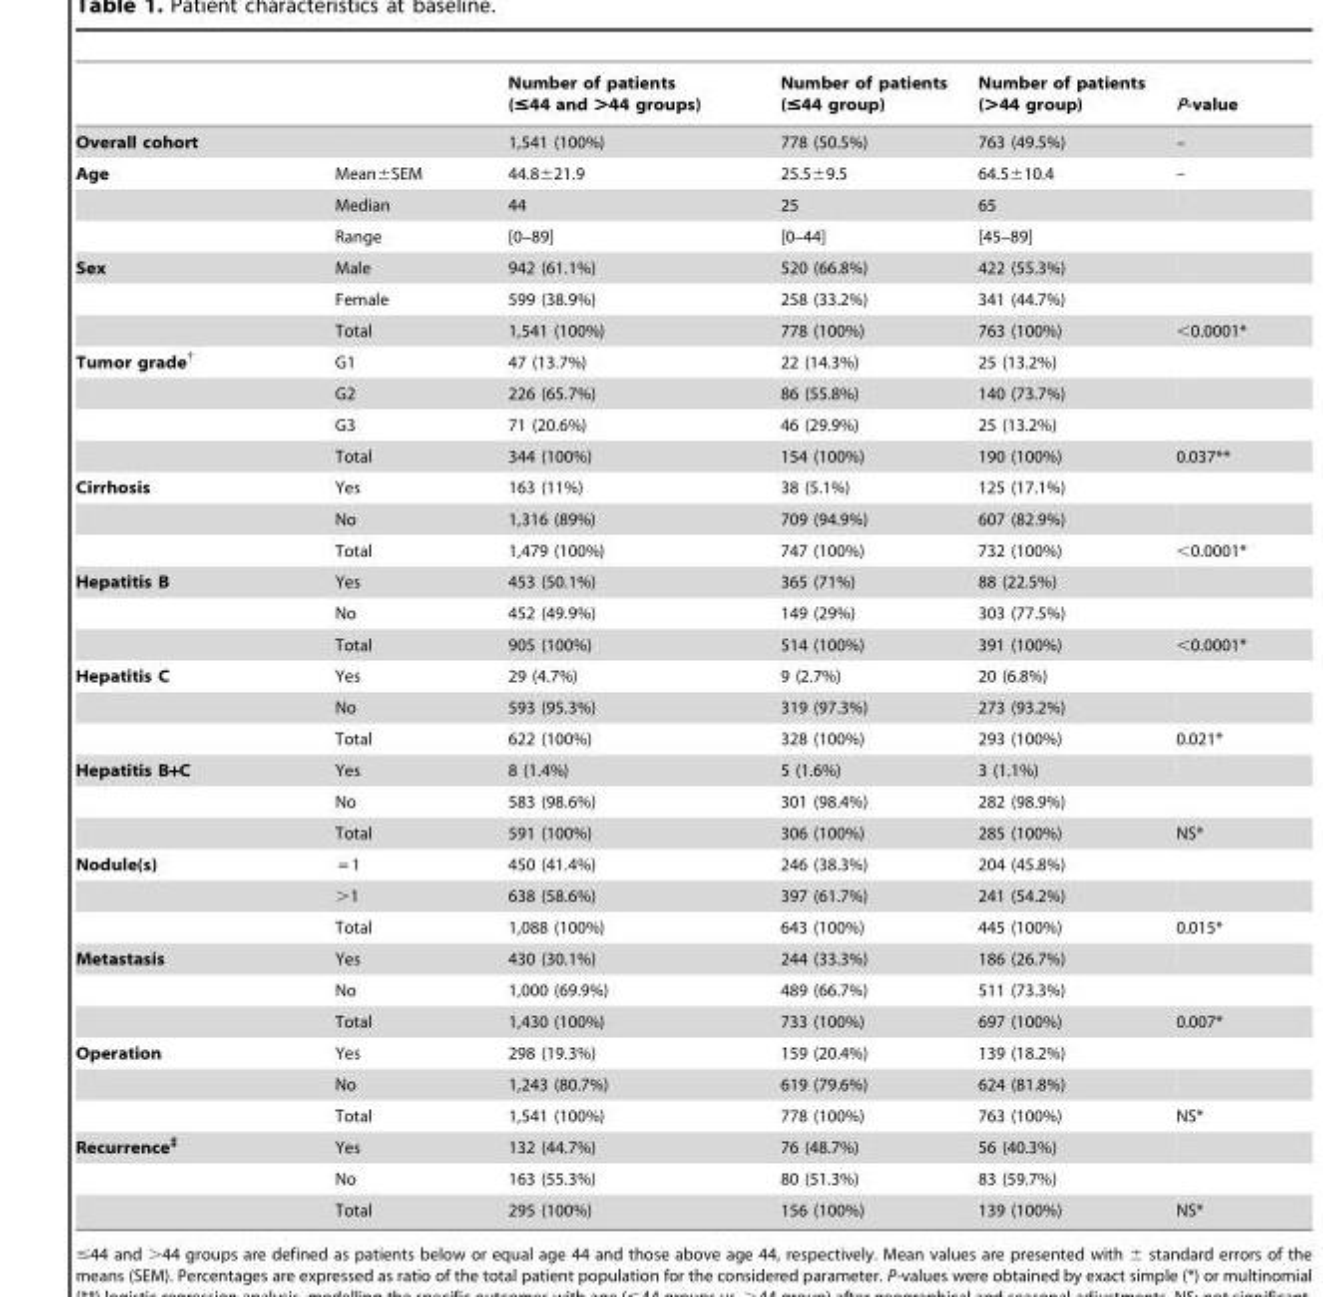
<table><thead><tr><td></td><td></td><td>Number of patients (≤44 and &gt;44 groups)</td><td>Number of patients (≤44 group)</td><td>Number of patients (&gt;44 group)</td><td>P-value</td></tr></thead><tbody><tr><td>Overall cohort</td><td></td><td>1,541 (100%)</td><td>778 (50.5%)</td><td>763 (49.5%)</td><td>–</td></tr><tr><td rowspan="3">Age</td><td>Mean±SEM</td><td>44.8±21.9</td><td>25.5±9.5</td><td>64.5±10.4</td><td>–</td></tr><tr><td>Median</td><td>44</td><td>25</td><td>65</td><td></td></tr><tr><td>Range</td><td>[0–89]</td><td>[0–44]</td><td>[45–89]</td><td></td></tr><tr><td rowspan="3">Sex</td><td>Male</td><td>942 (61.1%)</td><td>520 (66.8%)</td><td>422 (55.3%)</td><td></td></tr><tr><td>Female</td><td>599 (38.9%)</td><td>258 (33.2%)</td><td>341 (44.7%)</td><td></td></tr><tr><td>Total</td><td>1,541 (100%)</td><td>778 (100%)</td><td>763 (100%)</td><td>&lt;0.0001*</td></tr><tr><td rowspan="4">Tumor grade†</td><td>G1</td><td>47 (13.7%)</td><td>22 (14.3%)</td><td>25 (13.2%)</td><td></td></tr><tr><td>G2</td><td>226 (65.7%)</td><td>86 (55.8%)</td><td>140 (73.7%)</td><td></td></tr><tr><td>G3</td><td>71 (20.6%)</td><td>46 (29.9%)</td><td>25 (13.2%)</td><td></td></tr><tr><td>Total</td><td>344 (100%)</td><td>154 (100%)</td><td>190 (100%)</td><td>0.037**</td></tr><tr><td rowspan="3">Cirrhosis</td><td>Yes</td><td>163 (11%)</td><td>38 (5.1%)</td><td>125 (17.1%)</td><td></td></tr><tr><td>No</td><td>1,316 (89%)</td><td>709 (94.9%)</td><td>607 (82.9%)</td><td></td></tr><tr><td>Total</td><td>1,479 (100%)</td><td>747 (100%)</td><td>732 (100%)</td><td>&lt;0.0001*</td></tr><tr><td rowspan="3">Hepatitis B</td><td>Yes</td><td>453 (50.1%)</td><td>365 (71%)</td><td>88 (22.5%)</td><td></td></tr><tr><td>No</td><td>452 (49.9%)</td><td>149 (29%)</td><td>303 (77.5%)</td><td></td></tr><tr><td>Total</td><td>905 (100%)</td><td>514 (100%)</td><td>391 (100%)</td><td>&lt;0.0001*</td></tr><tr><td rowspan="3">Hepatitis C</td><td>Yes</td><td>29 (4.7%)</td><td>9 (2.7%)</td><td>20 (6.8%)</td><td></td></tr><tr><td>No</td><td>593 (95.3%)</td><td>319 (97.3%)</td><td>273 (93.2%)</td><td></td></tr><tr><td>Total</td><td>622 (100%)</td><td>328 (100%)</td><td>293 (100%)</td><td>0.021*</td></tr><tr><td rowspan="3">Hepatitis B+C</td><td>Yes</td><td>8 (1.4%)</td><td>5 (1.6%)</td><td>3 (1.1%)</td><td></td></tr><tr><td>No</td><td>583 (98.6%)</td><td>301 (98.4%)</td><td>282 (98.9%)</td><td></td></tr><tr><td>Total</td><td>591 (100%)</td><td>306 (100%)</td><td>285 (100%)</td><td>NS*</td></tr><tr><td rowspan="3">Nodule(s)</td><td>= 1</td><td>450 (41.4%)</td><td>246 (38.3%)</td><td>204 (45.8%)</td><td></td></tr><tr><td>&gt;1</td><td>638 (58.6%)</td><td>397 (61.7%)</td><td>241 (54.2%)</td><td></td></tr><tr><td>Total</td><td>1,088 (100%)</td><td>643 (100%)</td><td>445 (100%)</td><td>0.015*</td></tr><tr><td rowspan="3">Metastasis</td><td>Yes</td><td>430 (30.1%)</td><td>244 (33.3%)</td><td>186 (26.7%)</td><td></td></tr><tr><td>No</td><td>1,000 (69.9%)</td><td>489 (66.7%)</td><td>511 (73.3%)</td><td></td></tr><tr><td>Total</td><td>1,430 (100%)</td><td>733 (100%)</td><td>697 (100%)</td><td>0.007*</td></tr><tr><td rowspan="3">Operation</td><td>Yes</td><td>298 (19.3%)</td><td>159 (20.4%)</td><td>139 (18.2%)</td><td></td></tr><tr><td>No</td><td>1,243 (80.7%)</td><td>619 (79.6%)</td><td>624 (81.8%)</td><td></td></tr><tr><td>Total</td><td>1,541 (100%)</td><td>778 (100%)</td><td>763 (100%)</td><td>NS*</td></tr><tr><td rowspan="3">Recurrence‡</td><td>Yes</td><td>132 (44.7%)</td><td>76 (48.7%)</td><td>56 (40.3%)</td><td></td></tr><tr><td>No</td><td>163 (55.3%)</td><td>80 (51.3%)</td><td>83 (59.7%)</td><td></td></tr><tr><td>Total</td><td>295 (100%)</td><td>156 (100%)</td><td>139 (100%)</td><td>NS*</td></tr></tbody></table>